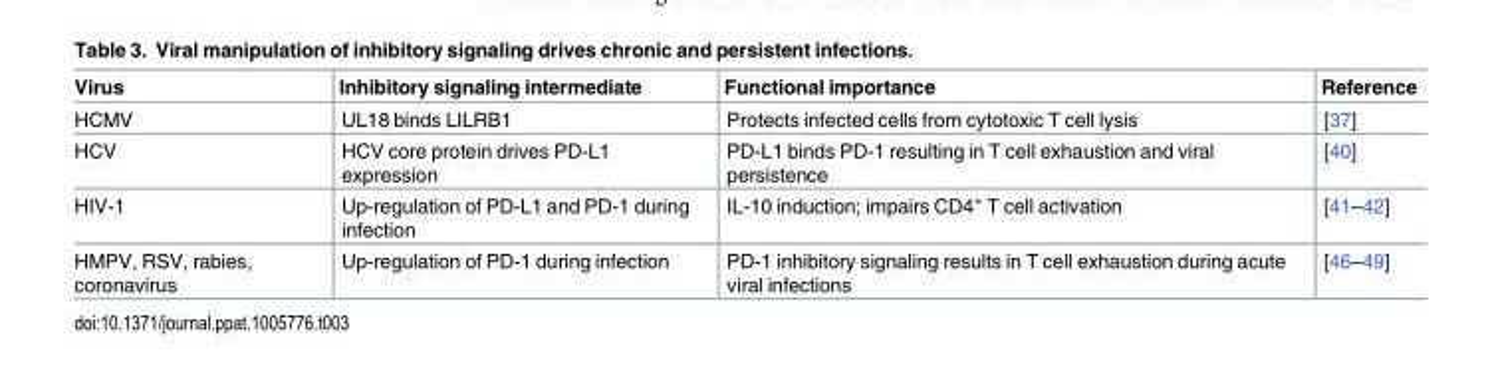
<table><thead><tr><td>Virus</td><td>Inhibitory signaling intermediate</td><td>Functional importance</td><td>Reference</td></tr></thead><tbody><tr><td>HCMV</td><td>UL18 binds LILRB1</td><td>Protects infected cells from cytotoxic T cell lysis</td><td>[37]</td></tr><tr><td>HCV</td><td>HCV core protein drives PD-L1 expression</td><td>PD-L1 binds PD-1 resulting in T cell exhaustion and viral persistence</td><td>[40]</td></tr><tr><td>HIV-1</td><td>Up-regulation of PD-L1 and PD-1 during infection</td><td>IL-10 induction; impairs CD4<sup>+</sup> T cell activation</td><td>[41–42]</td></tr><tr><td>HMPV, RSV, rabies, coronavirus</td><td>Up-regulation of PD-1 during infection</td><td>PD-1 inhibitory signaling results in T cell exhaustion during acute viral infections</td><td>[46–49]</td></tr></tbody></table>